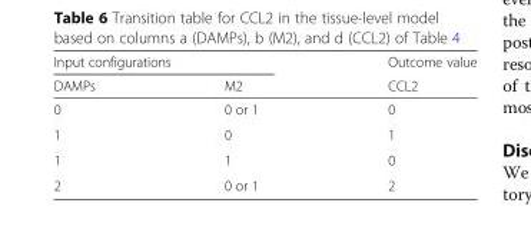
<table><thead><tr><td colspan="2">Input configurations</td><td rowspan="2">Outcome value CCL2</td></tr><tr><td>DAMPs</td><td>M2</td></tr></thead><tbody><tr><td>0</td><td>0 or 1</td><td>0</td></tr><tr><td>1</td><td>0</td><td>1</td></tr><tr><td>1</td><td>1</td><td>0</td></tr><tr><td>2</td><td>0 or 1</td><td>2</td></tr></tbody></table>